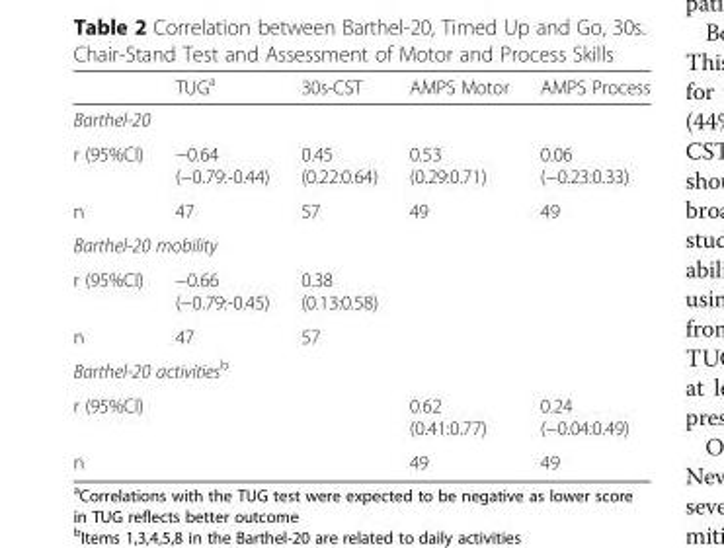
<table><thead><tr><td></td><td>TUG<sup>a</sup></td><td>30s-CST</td><td>AMPS Motor</td><td>AMPS Process</td></tr></thead><tbody><tr><td colspan="5">Barthel-20</td></tr><tr><td>r (95%CI)</td><td>−0.64 (−0.79:-0.44)</td><td>0.45 (0.22:0.64)</td><td>0.53 (0.29:0.71)</td><td>0.06 (−0.23:0.33)</td></tr><tr><td>n</td><td>47</td><td>57</td><td>49</td><td>49</td></tr><tr><td colspan="5">Barthel-20 mobility</td></tr><tr><td>r (95%CI)</td><td>−0.66 (−0.79:-0.45)</td><td>0.38 (0.13:0.58)</td><td></td><td></td></tr><tr><td>n</td><td>47</td><td>57</td><td></td><td></td></tr><tr><td colspan="5">Barthel-20 activities<sup>b</sup></td></tr><tr><td>r (95%CI)</td><td></td><td></td><td>0.62 (0.41:0.77)</td><td>0.24 (−0.04:0.49)</td></tr><tr><td>n</td><td></td><td></td><td>49</td><td>49</td></tr></tbody></table>